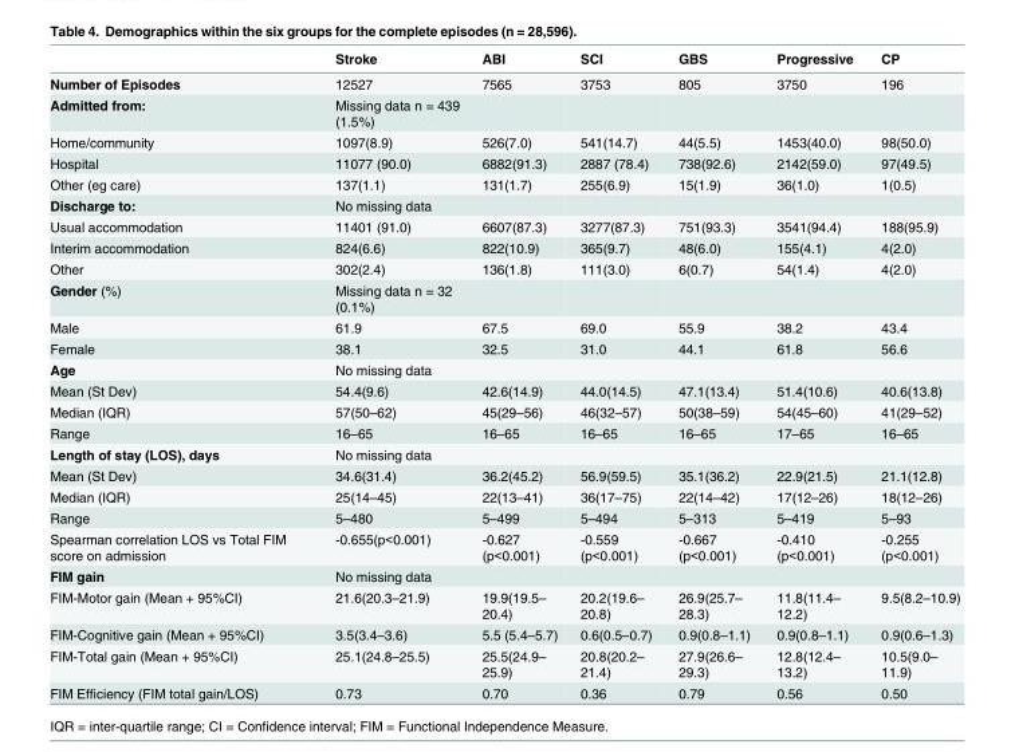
<table><thead><tr><td></td><td>Stroke</td><td>ABI</td><td>SCI</td><td>GBS</td><td>Progressive</td><td>CP</td></tr></thead><tbody><tr><td>Number of Episodes</td><td>12527</td><td>7565</td><td>3753</td><td>805</td><td>3750</td><td>196</td></tr><tr><td>Admitted from:</td><td>Missing data n = 439 (1.5%)</td><td></td><td></td><td></td><td></td><td></td></tr><tr><td>Home/community</td><td>1097(8.9)</td><td>526(7.0)</td><td>541(14.7)</td><td>44(5.5)</td><td>1453(40.0)</td><td>98(50.0)</td></tr><tr><td>Hospital</td><td>11077 (90.0)</td><td>6882(91.3)</td><td>2887 (78.4)</td><td>738(92.6)</td><td>2142(59.0)</td><td>97(49.5)</td></tr><tr><td>Other (eg care)</td><td>137(1.1)</td><td>131(1.7)</td><td>255(6.9)</td><td>15(1.9)</td><td>36(1.0)</td><td>1(0.5)</td></tr><tr><td>Discharge to:</td><td>No missing data</td><td></td><td></td><td></td><td></td><td></td></tr><tr><td>Usual accommodation</td><td>11401 (91.0)</td><td>6607(87.3)</td><td>3277(87.3)</td><td>751(93.3)</td><td>3541(94.4)</td><td>188(95.9)</td></tr><tr><td>Interim accommodation</td><td>824(6.6)</td><td>822(10.9)</td><td>365(9.7)</td><td>48(6.0)</td><td>155(4.1)</td><td>4(2.0)</td></tr><tr><td>Other</td><td>302(2.4)</td><td>136(1.8)</td><td>111(3.0)</td><td>6(0.7)</td><td>54(1.4)</td><td>4(2.0)</td></tr><tr><td>Gender (%)</td><td>Missing data n = 32 (0.1%)</td><td></td><td></td><td></td><td></td><td></td></tr><tr><td>Male</td><td>61.9</td><td>67.5</td><td>69.0</td><td>55.9</td><td>38.2</td><td>43.4</td></tr><tr><td>Female</td><td>38.1</td><td>32.5</td><td>31.0</td><td>44.1</td><td>61.8</td><td>56.6</td></tr><tr><td>Age</td><td>No missing data</td><td></td><td></td><td></td><td></td><td></td></tr><tr><td>Mean (St Dev)</td><td>54.4(9.6)</td><td>42.6(14.9)</td><td>44.0(14.5)</td><td>47.1(13.4)</td><td>51.4(10.6)</td><td>40.6(13.8)</td></tr><tr><td>Median (IQR)</td><td>57(50–62)</td><td>45(29–56)</td><td>46(32–57)</td><td>50(38–59)</td><td>54(45–60)</td><td>41(29–52)</td></tr><tr><td>Range</td><td>16–65</td><td>16–65</td><td>16–65</td><td>16–65</td><td>17–65</td><td>16–65</td></tr><tr><td>Length of stay (LOS), days</td><td>No missing data</td><td></td><td></td><td></td><td></td><td></td></tr><tr><td>Mean (St Dev)</td><td>34.6(31.4)</td><td>36.2(45.2)</td><td>56.9(59.5)</td><td>35.1(36.2)</td><td>22.9(21.5)</td><td>21.1(12.8)</td></tr><tr><td>Median (IQR)</td><td>25(14–45)</td><td>22(13–41)</td><td>36(17–75)</td><td>22(14–42)</td><td>17(12–26)</td><td>18(12–26)</td></tr><tr><td>Range</td><td>5–480</td><td>5–499</td><td>5–494</td><td>5–313</td><td>5–419</td><td>5–93</td></tr><tr><td>Spearman correlation LOS vs Total FIM score on admission</td><td>-0.655(p&lt;0.001)</td><td>-0.627 (p&lt;0.001)</td><td>-0.559 (p&lt;0.001)</td><td>-0.667 (p&lt;0.001)</td><td>-0.410 (p&lt;0.001)</td><td>-0.255 (p&lt;0.001)</td></tr><tr><td>FIM gain</td><td>No missing data</td><td></td><td></td><td></td><td></td><td></td></tr><tr><td>FIM-Motor gain (Mean + 95%CI)</td><td>21.6(20.3–21.9)</td><td>19.9(19.5– 20.4)</td><td>20.2(19.6– 20.8)</td><td>26.9(25.7– 28.3)</td><td>11.8(11.4– 12.2)</td><td>9.5(8.2–10.9)</td></tr><tr><td>FIM-Cognitive gain (Mean + 95%CI)</td><td>3.5(3.4–3.6)</td><td>5.5 (5.4–5.7)</td><td>0.6(0.5–0.7)</td><td>0.9(0.8–1.1)</td><td>0.9(0.8–1.1)</td><td>0.9(0.6–1.3)</td></tr><tr><td>FIM-Total gain (Mean + 95%CI)</td><td>25.1(24.8–25.5)</td><td>25.5(24.9– 25.9)</td><td>20.8(20.2– 21.4)</td><td>27.9(26.6– 29.3)</td><td>12.8(12.4– 13.2)</td><td>10.5(9.0– 11.9)</td></tr><tr><td>FIM Efficiency (FIM total gain/LOS)</td><td>0.73</td><td>0.70</td><td>0.36</td><td>0.79</td><td>0.56</td><td>0.50</td></tr></tbody></table>